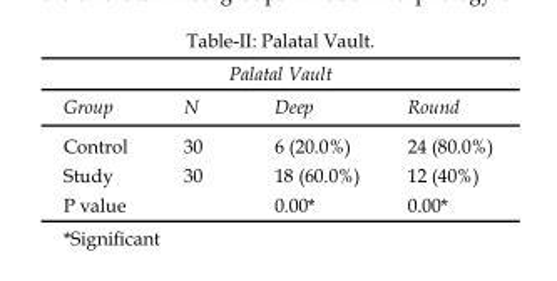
<table><thead><tr><td colspan="4">Palatal Vault</td></tr><tr><td>Group</td><td>N</td><td>Deep</td><td>Round</td></tr></thead><tbody><tr><td>Control</td><td>30</td><td>6 (20.0%)</td><td>24 (80.0%)</td></tr><tr><td>Study</td><td>30</td><td>18 (60.0%)</td><td>12 (40%)</td></tr><tr><td>P value</td><td></td><td>0.00*</td><td>0.00*</td></tr></tbody></table>